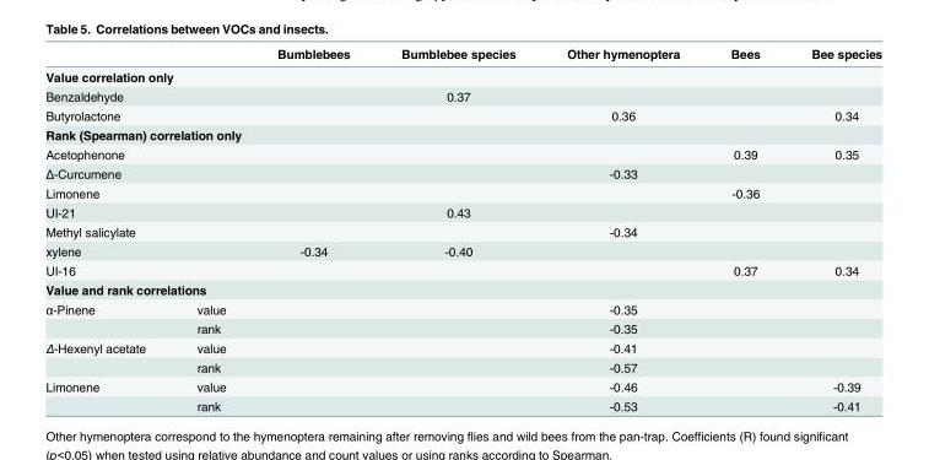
<table><thead><tr><td></td><td></td><td>Bumblebees</td><td>Bumblebee species</td><td>Other hymenoptera</td><td>Bees</td><td>Bee species</td></tr></thead><tbody><tr><td colspan="7">Value correlation only</td></tr><tr><td>Benzaldehyde</td><td></td><td></td><td>0.37</td><td></td><td></td><td></td></tr><tr><td>Butyrolactone</td><td></td><td></td><td></td><td>0.36</td><td></td><td>0.34</td></tr><tr><td colspan="7">Rank (Spearman) correlation only</td></tr><tr><td>Acetophenone</td><td></td><td></td><td></td><td></td><td>0.39</td><td>0.35</td></tr><tr><td>Δ-Curcumene</td><td></td><td></td><td></td><td>-0.33</td><td></td><td></td></tr><tr><td>Limonene</td><td></td><td></td><td></td><td></td><td>-0.36</td><td></td></tr><tr><td>UI-21</td><td></td><td></td><td>0.43</td><td></td><td></td><td></td></tr><tr><td>Methyl salicylate</td><td></td><td></td><td></td><td>-0.34</td><td></td><td></td></tr><tr><td>xylene</td><td></td><td>-0.34</td><td>-0.40</td><td></td><td></td><td></td></tr><tr><td>UI-16</td><td></td><td></td><td></td><td></td><td>0.37</td><td>0.34</td></tr><tr><td colspan="7">Value and rank correlations</td></tr><tr><td rowspan="2">α-Pinene</td><td>value</td><td></td><td></td><td>-0.35</td><td></td><td></td></tr><tr><td>rank</td><td></td><td></td><td>-0.35</td><td></td><td></td></tr><tr><td rowspan="2">Δ-Hexenyl acetate</td><td>value</td><td></td><td></td><td>-0.41</td><td></td><td></td></tr><tr><td>rank</td><td></td><td></td><td>-0.57</td><td></td><td></td></tr><tr><td rowspan="2">Limonene</td><td>value</td><td></td><td></td><td>-0.46</td><td></td><td>-0.39</td></tr><tr><td>rank</td><td></td><td></td><td>-0.53</td><td></td><td>-0.41</td></tr></tbody></table>